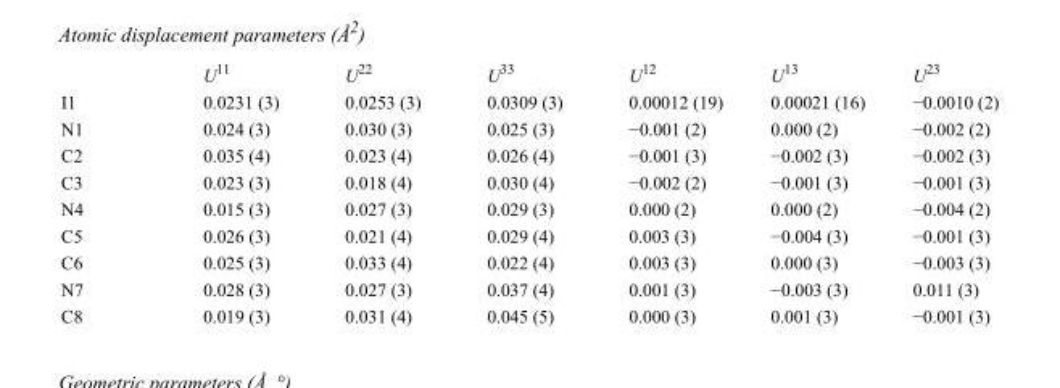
<table><thead><tr><td></td><td>U<sup>11</sup></td><td>U<sup>22</sup></td><td>U<sup>33</sup></td><td>U<sup>12</sup></td><td>U<sup>13</sup></td><td>U<sup>23</sup></td></tr></thead><tbody><tr><td>I1</td><td>0.0231 (3)</td><td>0.0253 (3)</td><td>0.0309 (3)</td><td>0.00012 (19)</td><td>0.00021 (16)</td><td>−0.0010 (2)</td></tr><tr><td>N1</td><td>0.024 (3)</td><td>0.030 (3)</td><td>0.025 (3)</td><td>−0.001 (2)</td><td>0.000 (2)</td><td>−0.002 (2)</td></tr><tr><td>C2</td><td>0.035 (4)</td><td>0.023 (4)</td><td>0.026 (4)</td><td>−0.001 (3)</td><td>−0.002 (3)</td><td>−0.002 (3)</td></tr><tr><td>C3</td><td>0.023 (3)</td><td>0.018 (4)</td><td>0.030 (4)</td><td>−0.002 (2)</td><td>−0.001 (3)</td><td>−0.001 (3)</td></tr><tr><td>N4</td><td>0.015 (3)</td><td>0.027 (3)</td><td>0.029 (3)</td><td>0.000 (2)</td><td>0.000 (2)</td><td>−0.004 (2)</td></tr><tr><td>C5</td><td>0.026 (3)</td><td>0.021 (4)</td><td>0.029 (4)</td><td>0.003 (3)</td><td>−0.004 (3)</td><td>−0.001 (3)</td></tr><tr><td>C6</td><td>0.025 (3)</td><td>0.033 (4)</td><td>0.022 (4)</td><td>0.003 (3)</td><td>0.000 (3)</td><td>−0.003 (3)</td></tr><tr><td>N7</td><td>0.028 (3)</td><td>0.027 (3)</td><td>0.037 (4)</td><td>0.001 (3)</td><td>−0.003 (3)</td><td>0.011 (3)</td></tr><tr><td>C8</td><td>0.019 (3)</td><td>0.031 (4)</td><td>0.045 (5)</td><td>0.000 (3)</td><td>0.001 (3)</td><td>−0.001 (3)</td></tr></tbody></table>